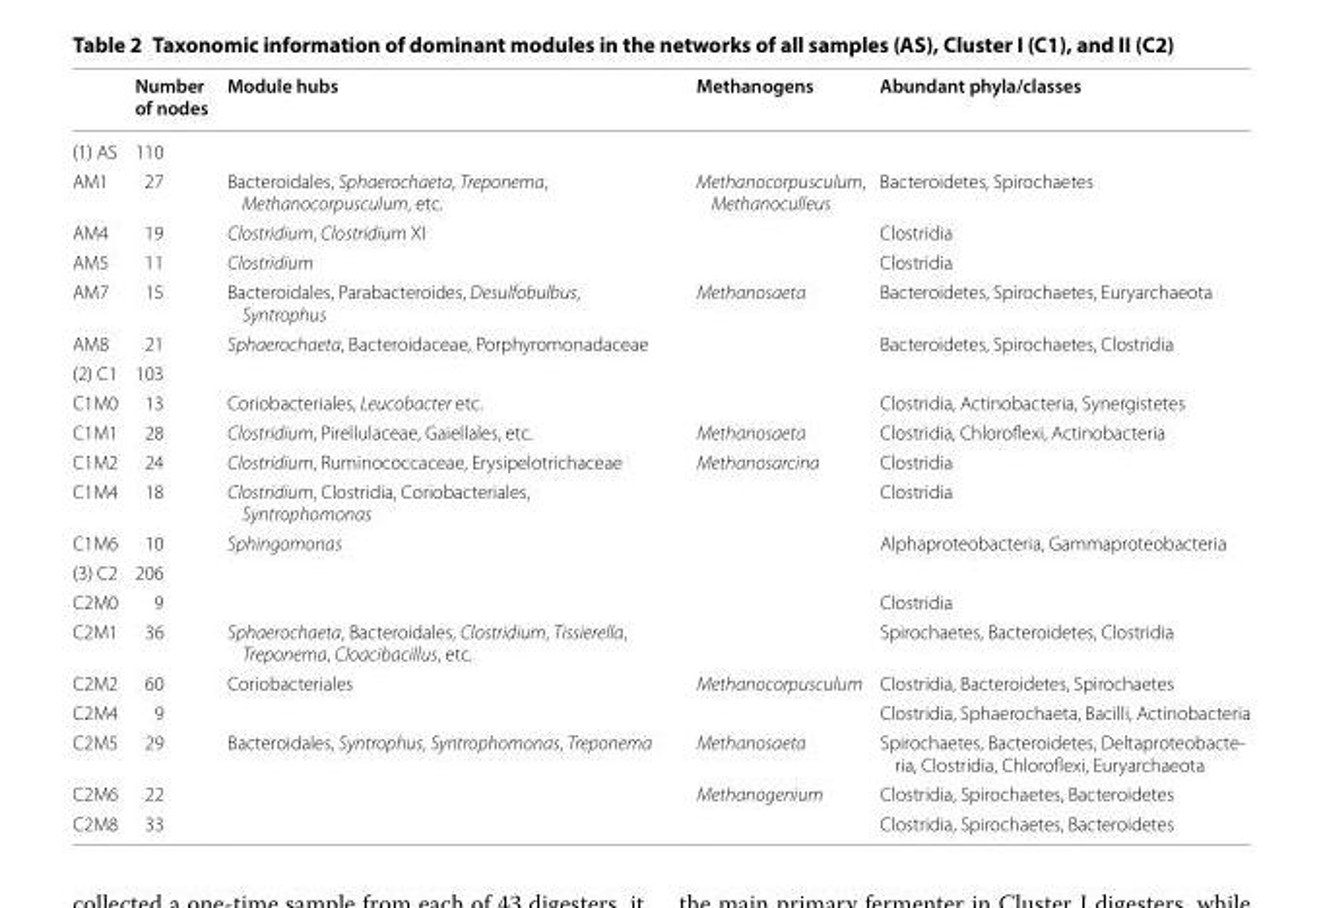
<table><thead><tr><td></td><td>Number of nodes</td><td>Module hubs</td><td>Methanogens</td><td>Abundant phyla/classes</td></tr></thead><tbody><tr><td>(1) AS</td><td>110</td><td></td><td></td><td></td></tr><tr><td>AM1</td><td>27</td><td>Bacteroidales, Sphaerochaeta, Treponema, Methanocorpusculum, etc.</td><td>Methanocorpusculum, Methanoculleus</td><td>Bacteroidetes, Spirochaetes</td></tr><tr><td>AM4</td><td>19</td><td>Clostridium, Clostridium XI</td><td></td><td>Clostridia</td></tr><tr><td>AM5</td><td>11</td><td>Clostridium</td><td></td><td>Clostridia</td></tr><tr><td>AM7</td><td>15</td><td>Bacteroidales, Parabacteroides, Desulfobulbus, Syntrophus</td><td>Methanosaeta</td><td>Bacteroidetes, Spirochaetes, Euryarchaeota</td></tr><tr><td>AM8</td><td>21</td><td>Sphaerochaeta, Bacteroidaceae, Porphyromonadaceae</td><td></td><td>Bacteroidetes, Spirochaetes, Clostridia</td></tr><tr><td>(2) C1</td><td>103</td><td></td><td></td><td></td></tr><tr><td>C1M0</td><td>13</td><td>Coriobacteriales, Leucobacter etc.</td><td></td><td>Clostridia, Actinobacteria, Synergistetes</td></tr><tr><td>C1M1</td><td>28</td><td>Clostridium, Pirellulaceae, Gaiellales, etc.</td><td>Methanosaeta</td><td>Clostridia, Chloroflexi, Actinobacteria</td></tr><tr><td>C1M2</td><td>24</td><td>Clostridium, Ruminococcaceae, Erysipelotrichaceae</td><td>Methanosarcina</td><td>Clostridia</td></tr><tr><td>C1M4</td><td>18</td><td>Clostridium, Clostridia, Coriobacteriales, Syntrophomonas</td><td></td><td>Clostridia</td></tr><tr><td>C1M6</td><td>10</td><td>Sphingomonas</td><td></td><td>Alphaproteobacteria, Gammaproteobacteria</td></tr><tr><td>(3) C2</td><td>206</td><td></td><td></td><td></td></tr><tr><td>C2M0</td><td>9</td><td></td><td></td><td>Clostridia</td></tr><tr><td>C2M1</td><td>36</td><td>Sphaerochaeta, Bacteroidales, Clostridium, Tissierella, Treponema, Cloacibacillus, etc.</td><td></td><td>Spirochaetes, Bacteroidetes, Clostridia</td></tr><tr><td>C2M2</td><td>60</td><td>Coriobacteriales</td><td>Methanocorpusculum</td><td>Clostridia, Bacteroidetes, Spirochaetes</td></tr><tr><td>C2M4</td><td>9</td><td></td><td></td><td>Clostridia, Sphaerochaeta, Bacilli, Actinobacteria</td></tr><tr><td>C2M5</td><td>29</td><td>Bacteroidales, Syntrophus, Syntrophomonas, Treponema</td><td>Methanosaeta</td><td>Spirochaetes, Bacteroidetes, Deltaproteobacte- ria, Clostridia, Chloroflexi, Euryarchaeota</td></tr><tr><td>C2M6</td><td>22</td><td></td><td>Methanogenium</td><td>Clostridia, Spirochaetes, Bacteroidetes</td></tr><tr><td>C2M8</td><td>33</td><td></td><td></td><td>Clostridia, Spirochaetes, Bacteroidetes</td></tr></tbody></table>